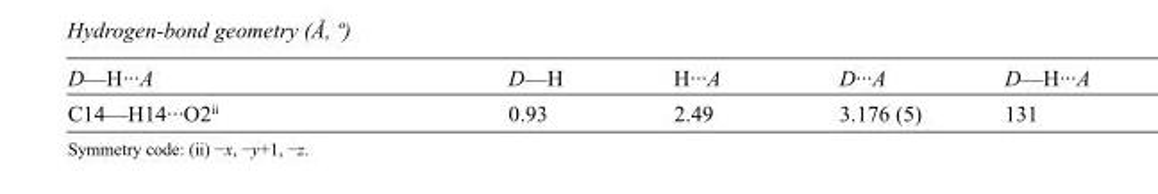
<table><tbody><tr><td>D—H···A</td><td>D—H</td><td>H···A</td><td>D···A</td><td>D—H···A</td></tr><tr><td>C14—H14···O2<sup>ii</sup></td><td>0.93</td><td>2.49</td><td>3.176 (5)</td><td>131</td></tr></tbody></table>